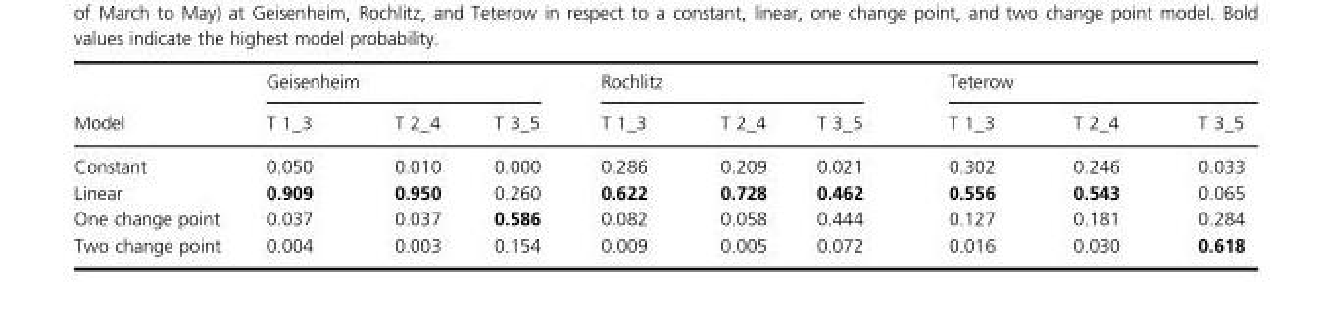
<table><thead><tr><td rowspan="2">Model</td><td colspan="3">Geisenheim</td><td colspan="3">Rochlitz</td><td colspan="3">Teterow</td></tr><tr><td>T 1_3</td><td>T 2_4</td><td>T 3_5</td><td>T 1_3</td><td>T 2_4</td><td>T 3_5</td><td>T 1_3</td><td>T 2_4</td><td>T 3_5</td></tr></thead><tbody><tr><td>Constant</td><td>0.050</td><td>0.010</td><td>0.000</td><td>0.286</td><td>0.209</td><td>0.021</td><td>0.302</td><td>0.246</td><td>0.033</td></tr><tr><td>Linear</td><td>0.909</td><td>0.950</td><td>0.260</td><td>0.622</td><td>0.728</td><td>0.462</td><td>0.556</td><td>0.543</td><td>0.065</td></tr><tr><td>One change point</td><td>0.037</td><td>0.037</td><td>0.586</td><td>0.082</td><td>0.058</td><td>0.444</td><td>0.127</td><td>0.181</td><td>0.284</td></tr><tr><td>Two change point</td><td>0.004</td><td>0.003</td><td>0.154</td><td>0.009</td><td>0.005</td><td>0.072</td><td>0.016</td><td>0.030</td><td>0.618</td></tr></tbody></table>